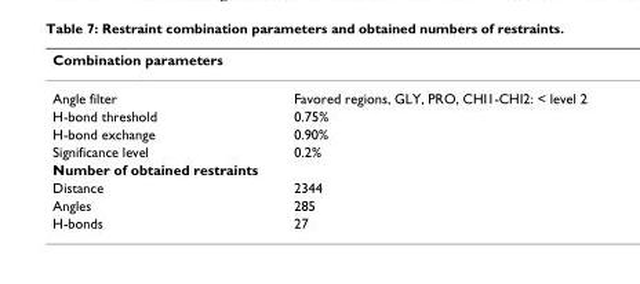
<table><thead><tr><td colspan="2">Combination parameters</td></tr><tr><td>Angle filter</td><td>Favored regions, GLY, PRO, CHI1-CHI2: &lt; level 2</td></tr></thead><tbody><tr><td>H-bond threshold</td><td>0.75%</td></tr><tr><td>H-bond exchange</td><td>0.90%</td></tr><tr><td>Significance level</td><td>0.2%</td></tr><tr><td colspan="2">Number of obtained restraints</td></tr><tr><td>Distance</td><td>2344</td></tr><tr><td>Angles</td><td>285</td></tr><tr><td>H-bonds</td><td>27</td></tr></tbody></table>